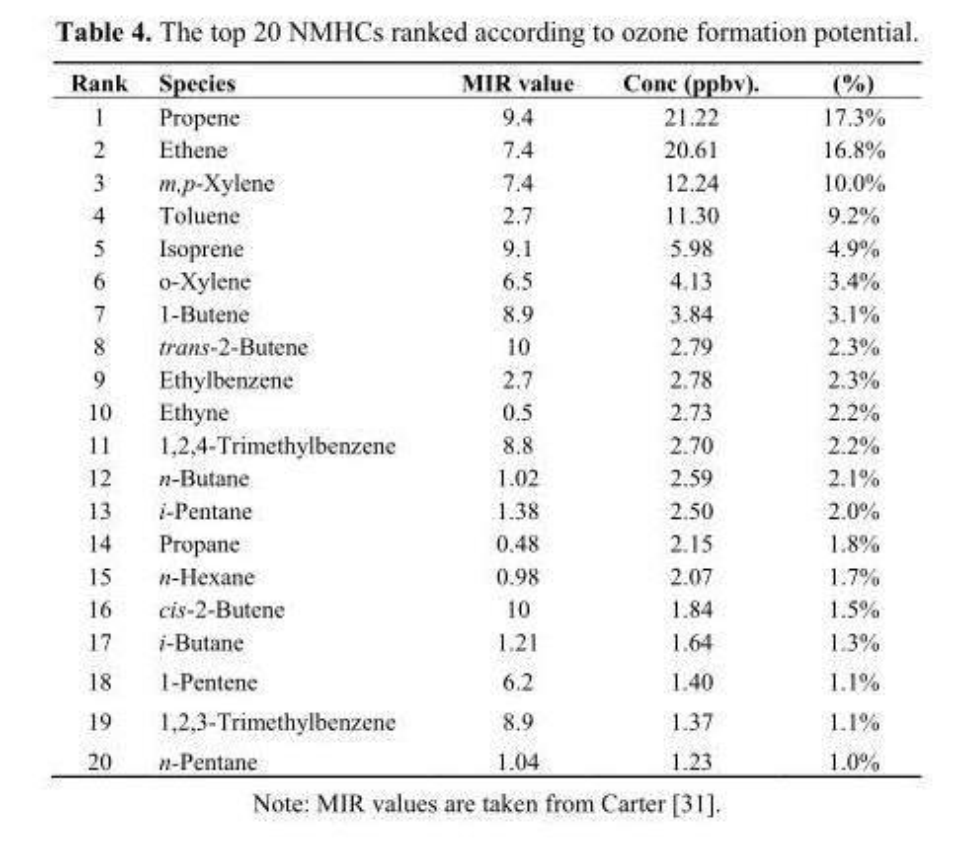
<table><thead><tr><td>Rank</td><td>Species</td><td>MIR value</td><td>Conc (ppbv).</td><td>(%)</td></tr></thead><tbody><tr><td>1</td><td>Propene</td><td>9.4</td><td>21.22</td><td>17.3%</td></tr><tr><td>2</td><td>Ethene</td><td>7.4</td><td>20.61</td><td>16.8%</td></tr><tr><td>3</td><td>m,p-Xylene</td><td>7.4</td><td>12.24</td><td>10.0%</td></tr><tr><td>4</td><td>Toluene</td><td>2.7</td><td>11.30</td><td>9.2%</td></tr><tr><td>5</td><td>Isoprene</td><td>9.1</td><td>5.98</td><td>4.9%</td></tr><tr><td>6</td><td>o-Xylene</td><td>6.5</td><td>4.13</td><td>3.4%</td></tr><tr><td>7</td><td>1-Butene</td><td>8.9</td><td>3.84</td><td>3.1%</td></tr><tr><td>8</td><td>trans-2-Butene</td><td>10</td><td>2.79</td><td>2.3%</td></tr><tr><td>9</td><td>Ethylbenzene</td><td>2.7</td><td>2.78</td><td>2.3%</td></tr><tr><td>10</td><td>Ethyne</td><td>0.5</td><td>2.73</td><td>2.2%</td></tr><tr><td>11</td><td>1,2,4-Trimethylbenzene</td><td>8.8</td><td>2.70</td><td>2.2%</td></tr><tr><td>12</td><td>n-Butane</td><td>1.02</td><td>2.59</td><td>2.1%</td></tr><tr><td>13</td><td>i-Pentane</td><td>1.38</td><td>2.50</td><td>2.0%</td></tr><tr><td>14</td><td>Propane</td><td>0.48</td><td>2.15</td><td>1.8%</td></tr><tr><td>15</td><td>n-Hexane</td><td>0.98</td><td>2.07</td><td>1.7%</td></tr><tr><td>16</td><td>cis-2-Butene</td><td>10</td><td>1.84</td><td>1.5%</td></tr><tr><td>17</td><td>i-Butane</td><td>1.21</td><td>1.64</td><td>1.3%</td></tr><tr><td>18</td><td>1-Pentene</td><td>6.2</td><td>1.40</td><td>1.1%</td></tr><tr><td>19</td><td>1,2,3-Trimethylbenzene</td><td>8.9</td><td>1.37</td><td>1.1%</td></tr><tr><td>20</td><td>n-Pentane</td><td>1.04</td><td>1.23</td><td>1.0%</td></tr></tbody></table>